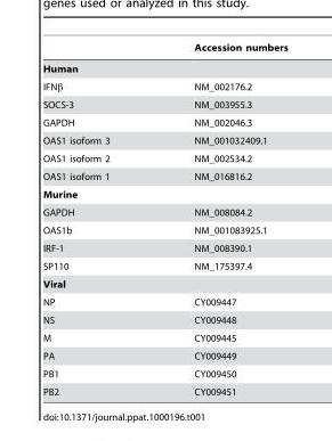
<table><thead><tr><td></td><td>Accession numbers</td></tr></thead><tbody><tr><td colspan="2">Human</td></tr><tr><td>IFNβ</td><td>NM_002176.2</td></tr><tr><td>SOCS-3</td><td>NM_003955.3</td></tr><tr><td>GAPDH</td><td>NM_002046.3</td></tr><tr><td>OAS1 isoform 3</td><td>NM_001032409.1</td></tr><tr><td>OAS1 isoform 2</td><td>NM_002534.2</td></tr><tr><td>OAS1 isoform 1</td><td>NM_016816.2</td></tr><tr><td colspan="2">Murine</td></tr><tr><td>GAPDH</td><td>NM_008084.2</td></tr><tr><td>OAS1b</td><td>NM_001083925.1</td></tr><tr><td>IRF-1</td><td>NM_008390.1</td></tr><tr><td>SP110</td><td>NM_175397.4</td></tr><tr><td colspan="2">Viral</td></tr><tr><td>NP</td><td>CY009447</td></tr><tr><td>NS</td><td>CY009448</td></tr><tr><td>M</td><td>CY009445</td></tr><tr><td>PA</td><td>CY009449</td></tr><tr><td>PB1</td><td>CY009450</td></tr><tr><td>PB2</td><td>CY009451</td></tr></tbody></table>